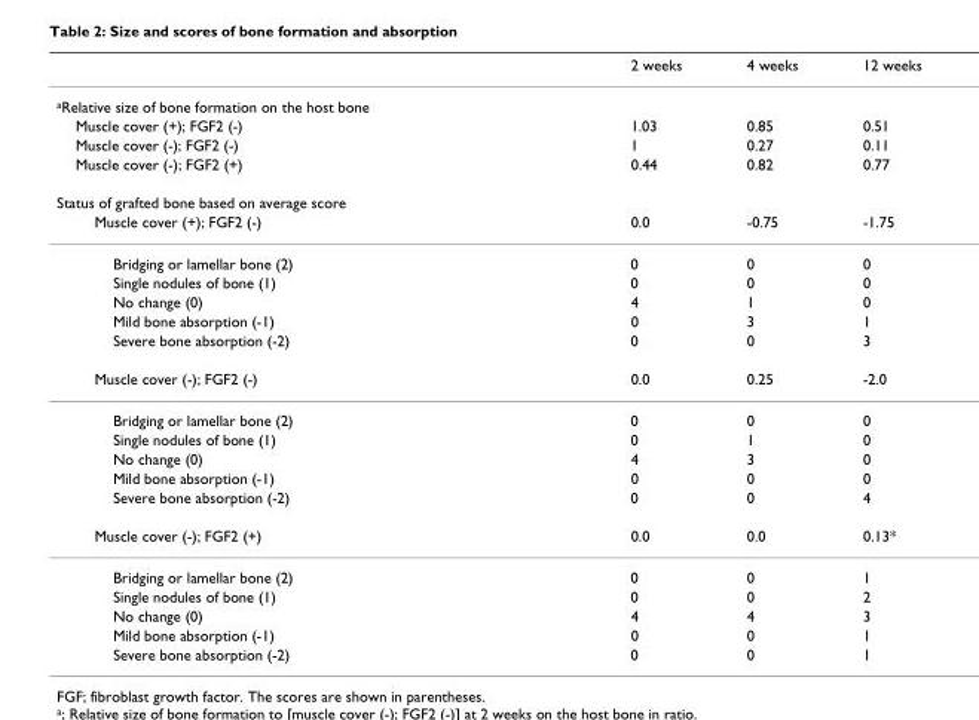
<table><thead><tr><td></td><td>2 weeks</td><td>4 weeks</td><td>12 weeks</td></tr></thead><tbody><tr><td colspan="4"><sup>a</sup>Relative size of bone formation on the host bone</td></tr><tr><td>Muscle cover (+); FGF2 (-)</td><td>1.03</td><td>0.85</td><td>0.51</td></tr><tr><td>Muscle cover (-); FGF2 (-)</td><td>1</td><td>0.27</td><td>0.11</td></tr><tr><td>Muscle cover (-); FGF2 (+)</td><td>0.44</td><td>0.82</td><td>0.77</td></tr><tr><td colspan="4">Status of grafted bone based on average score</td></tr><tr><td>Muscle cover (+); FGF2 (-)</td><td>0.0</td><td>-0.75</td><td>-1.75</td></tr><tr><td>Bridging or lamellar bone (2)</td><td>0</td><td>0</td><td>0</td></tr><tr><td>Single nodules of bone (1)</td><td>0</td><td>0</td><td>0</td></tr><tr><td>No change (0)</td><td>4</td><td>1</td><td>0</td></tr><tr><td>Mild bone absorption (-1)</td><td>0</td><td>3</td><td>1</td></tr><tr><td>Severe bone absorption (-2)</td><td>0</td><td>0</td><td>3</td></tr><tr><td>Muscle cover (-); FGF2 (-)</td><td>0.0</td><td>0.25</td><td>-2.0</td></tr><tr><td>Bridging or lamellar bone (2)</td><td>0</td><td>0</td><td>0</td></tr><tr><td>Single nodules of bone (1)</td><td>0</td><td>1</td><td>0</td></tr><tr><td>No change (0)</td><td>4</td><td>3</td><td>0</td></tr><tr><td>Mild bone absorption (-1)</td><td>0</td><td>0</td><td>0</td></tr><tr><td>Severe bone absorption (-2)</td><td>0</td><td>0</td><td>4</td></tr><tr><td>Muscle cover (-); FGF2 (+)</td><td>0.0</td><td>0.0</td><td>0.13*</td></tr><tr><td>Bridging or lamellar bone (2)</td><td>0</td><td>0</td><td>1</td></tr><tr><td>Single nodules of bone (1)</td><td>0</td><td>0</td><td>2</td></tr><tr><td>No change (0)</td><td>4</td><td>4</td><td>3</td></tr><tr><td>Mild bone absorption (-1)</td><td>0</td><td>0</td><td>1</td></tr><tr><td>Severe bone absorption (-2)</td><td>0</td><td>0</td><td>1</td></tr></tbody></table>